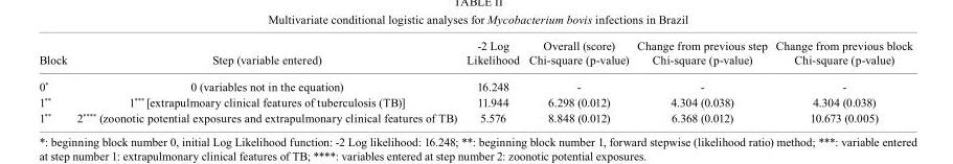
<table><thead><tr><td>Block</td><td>Step (variable entered)</td><td>-2 Log Likelihood</td><td>Overall (score) Chi-square (p-value)</td><td>Change from previous step Chi-square (p-value)</td><td>Change from previous block Chi-square (p-value)</td></tr></thead><tbody><tr><td>0*</td><td>0 (variables not in the equation)</td><td>16.248</td><td>-</td><td>-</td><td>-</td></tr><tr><td>1**</td><td>1*** [extrapulmoary clinical features of tuberculosis (TB)]</td><td>11.944</td><td>6.298 (0.012)</td><td>4.304 (0.038)</td><td>4.304 (0.038)</td></tr><tr><td>1**</td><td>2**** (zoonotic potential exposures and extrapulmonary clinical features of TB)</td><td>5.576</td><td>8.848 (0.012)</td><td>6.368 (0.012)</td><td>10.673 (0.005)</td></tr></tbody></table>